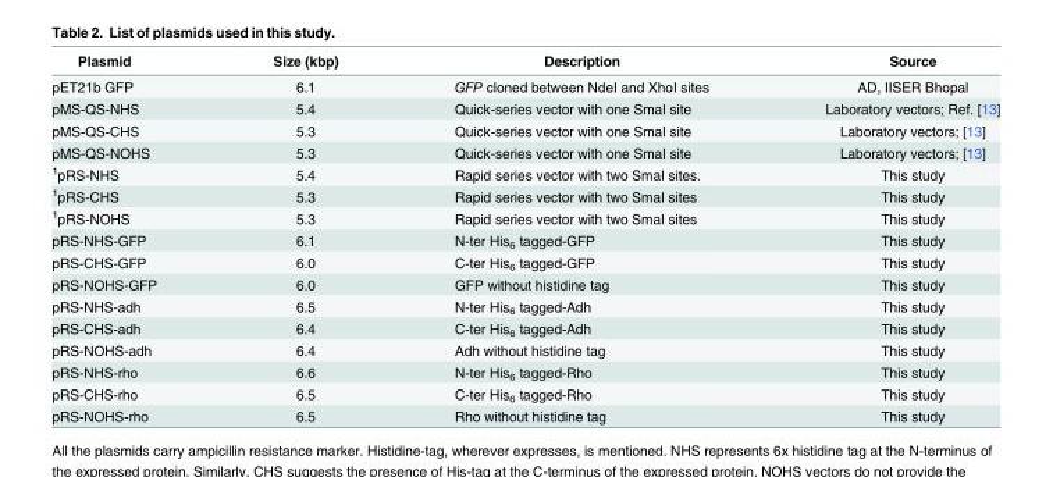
<table><thead><tr><td>Plasmid</td><td>Size (kbp)</td><td>Description</td><td>Source</td></tr></thead><tbody><tr><td>pET21b GFP</td><td>6.1</td><td>GFP cloned between NdeI and XhoI sites</td><td>AD, IISER Bhopal</td></tr><tr><td>pMS-QS-NHS</td><td>5.4</td><td>Quick-series vector with one SmaI site</td><td>Laboratory vectors; Ref. [13]</td></tr><tr><td>pMS-QS-CHS</td><td>5.3</td><td>Quick-series vector with one SmaI site</td><td>Laboratory vectors; [13]</td></tr><tr><td>pMS-QS-NOHS</td><td>5.3</td><td>Quick-series vector with one SmaI site</td><td>Laboratory vectors; [13]</td></tr><tr><td><sup>1</sup>pRS-NHS</td><td>5.4</td><td>Rapid series vector with two SmaI sites.</td><td>This study</td></tr><tr><td><sup>1</sup>pRS-CHS</td><td>5.3</td><td>Rapid series vector with two SmaI sites</td><td>This study</td></tr><tr><td><sup>1</sup>pRS-NOHS</td><td>5.3</td><td>Rapid series vector with two SmaI sites</td><td>This study</td></tr><tr><td>pRS-NHS-GFP</td><td>6.1</td><td>N-ter His<sub>6</sub> tagged-GFP</td><td>This study</td></tr><tr><td>pRS-CHS-GFP</td><td>6.0</td><td>C-ter His<sub>6</sub> tagged-GFP</td><td>This study</td></tr><tr><td>pRS-NOHS-GFP</td><td>6.0</td><td>GFP without histidine tag</td><td>This study</td></tr><tr><td>pRS-NHS-adh</td><td>6.5</td><td>N-ter His<sub>6</sub> tagged-Adh</td><td>This study</td></tr><tr><td>pRS-CHS-adh</td><td>6.4</td><td>C-ter His<sub>6</sub> tagged-Adh</td><td>This study</td></tr><tr><td>pRS-NOHS-adh</td><td>6.4</td><td>Adh without histidine tag</td><td>This study</td></tr><tr><td>pRS-NHS-rho</td><td>6.6</td><td>N-ter His<sub>6</sub> tagged-Rho</td><td>This study</td></tr><tr><td>pRS-CHS-rho</td><td>6.5</td><td>C-ter His<sub>6</sub> tagged-Rho</td><td>This study</td></tr><tr><td>pRS-NOHS-rho</td><td>6.5</td><td>Rho without histidine tag</td><td>This study</td></tr></tbody></table>